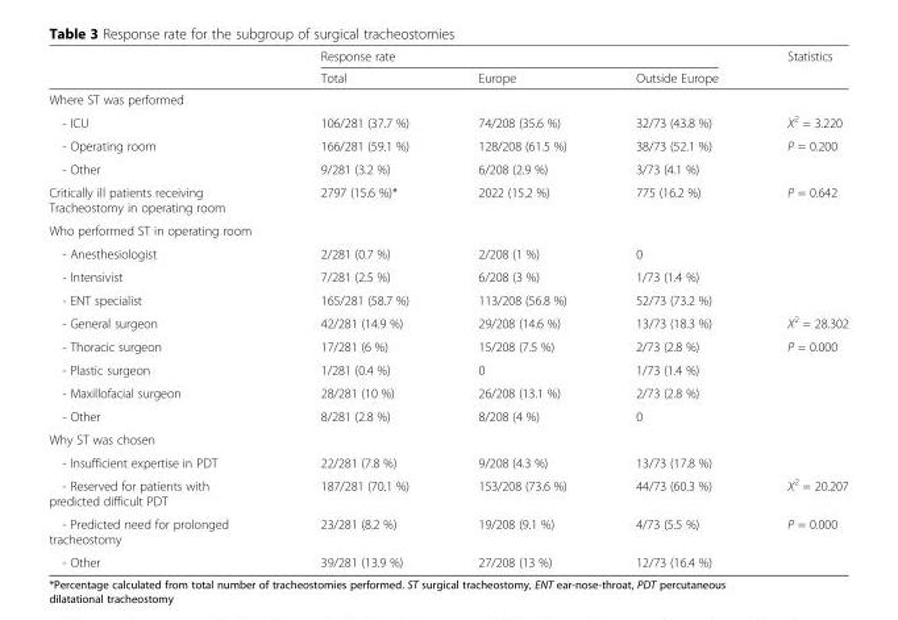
<table><thead><tr><td rowspan="2"></td><td colspan="3">Response rate</td><td rowspan="2">Statistics</td></tr><tr><td>Total</td><td>Europe</td><td>Outside Europe</td></tr></thead><tbody><tr><td colspan="5">Where ST was performed</td></tr><tr><td>- ICU</td><td>106/281 (37.7 %)</td><td>74/208 (35.6 %)</td><td>32/73 (43.8 %)</td><td>X<sup>2</sup> = 3.220</td></tr><tr><td>- Operating room</td><td>166/281 (59.1 %)</td><td>128/208 (61.5 %)</td><td>38/73 (52.1 %)</td><td rowspan="2">P = 0.200</td></tr><tr><td>- Other</td><td>9/281 (3.2 %)</td><td>6/208 (2.9 %)</td><td>3/73 (4.1 %)</td></tr><tr><td>Critically ill patients receiving Tracheostomy in operating room</td><td>2797 (15.6 %)*</td><td>2022 (15.2 %)</td><td>775 (16.2 %)</td><td>P = 0.642</td></tr><tr><td colspan="5">Who performed ST in operating room</td></tr><tr><td>- Anesthesiologist</td><td>2/281 (0.7 %)</td><td>2/208 (1 %)</td><td>0</td><td></td></tr><tr><td>- Intensivist</td><td>7/281 (2.5 %)</td><td>6/208 (3 %)</td><td>1/73 (1.4 %)</td><td></td></tr><tr><td>- ENT specialist</td><td>165/281 (58.7 %)</td><td>113/208 (56.8 %)</td><td>52/73 (73.2 %)</td><td></td></tr><tr><td>- General surgeon</td><td>42/281 (14.9 %)</td><td>29/208 (14.6 %)</td><td>13/73 (18.3 %)</td><td>X<sup>2</sup> = 28.302</td></tr><tr><td>- Thoracic surgeon</td><td>17/281 (6 %)</td><td>15/208 (7.5 %)</td><td>2/73 (2.8 %)</td><td>P = 0.000</td></tr><tr><td>- Plastic surgeon</td><td>1/281 (0.4 %)</td><td>0</td><td>1/73 (1.4 %)</td><td></td></tr><tr><td>- Maxillofacial surgeon</td><td>28/281 (10 %)</td><td>26/208 (13.1 %)</td><td>2/73 (2.8 %)</td><td></td></tr><tr><td>- Other</td><td>8/281 (2.8 %)</td><td>8/208 (4 %)</td><td>0</td><td></td></tr><tr><td colspan="5">Why ST was chosen</td></tr><tr><td>- Insufficient expertise in PDT</td><td>22/281 (7.8 %)</td><td>9/208 (4.3 %)</td><td>13/73 (17.8 %)</td><td></td></tr><tr><td>- Reserved for patients with predicted difficult PDT</td><td>187/281 (70.1 %)</td><td>153/208 (73.6 %)</td><td>44/73 (60.3 %)</td><td>X<sup>2</sup> = 20.207</td></tr><tr><td>- Predicted need for prolonged tracheostomy</td><td>23/281 (8.2 %)</td><td>19/208 (9.1 %)</td><td>4/73 (5.5 %)</td><td>P = 0.000</td></tr><tr><td>- Other</td><td>39/281 (13.9 %)</td><td>27/208 (13 %)</td><td>12/73 (16.4 %)</td><td></td></tr></tbody></table>